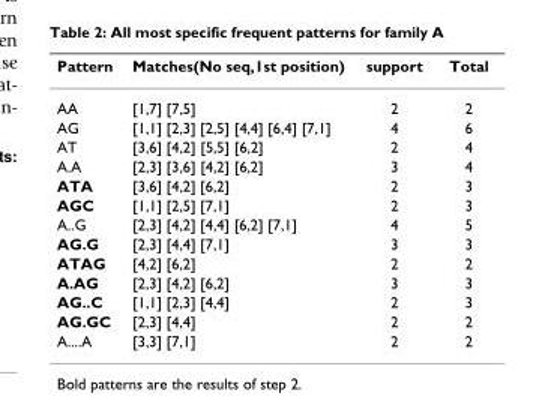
<table><thead><tr><td>Pattern</td><td>Matches(No seq,1st position)</td><td>support</td><td>Total</td></tr></thead><tbody><tr><td>AA</td><td>[1,7] [7,5]</td><td>2</td><td>2</td></tr><tr><td>AG</td><td>[1,1] [2,3] [2,5] [4,4] [6,4] [7,1]</td><td>4</td><td>6</td></tr><tr><td>AT</td><td>[3,6] [4,2] [5,5] [6,2]</td><td>2</td><td>4</td></tr><tr><td>A.A</td><td>[2,3] [3,6] [4,2] [6,2]</td><td>3</td><td>4</td></tr><tr><td>ATA</td><td>[3,6] [4,2] [6,2]</td><td>2</td><td>3</td></tr><tr><td>AGC</td><td>[1,1] [2,5] [7,1]</td><td>2</td><td>3</td></tr><tr><td>A..G</td><td>[2,3] [4,2] [4,4] [6,2] [7,1]</td><td>4</td><td>5</td></tr><tr><td>AG.G</td><td>[2,3] [4,4] [7,1]</td><td>3</td><td>3</td></tr><tr><td>ATAG</td><td>[4,2] [6,2]</td><td>2</td><td>2</td></tr><tr><td>A.AG</td><td>[2,3] [4,2] [6,2]</td><td>3</td><td>3</td></tr><tr><td>AG..C</td><td>[1,1] [2,3] [4,4]</td><td>2</td><td>3</td></tr><tr><td>AG.GC</td><td>[2,3] [4,4]</td><td>2</td><td>2</td></tr><tr><td>A....A</td><td>[3,3] [7,1]</td><td>2</td><td>2</td></tr></tbody></table>